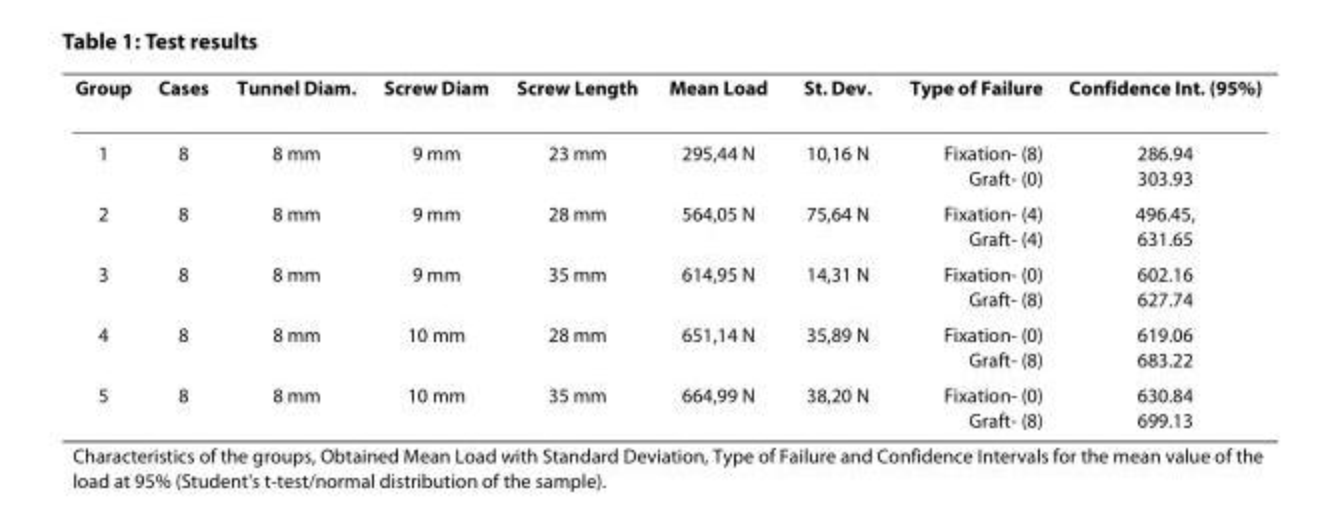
<table><thead><tr><td>Group</td><td>Cases</td><td>Tunnel Diam.</td><td>Screw Diam</td><td>Screw Length</td><td>Mean Load</td><td>St. Dev.</td><td>Type of Failure</td><td>Confidence Int. (95%)</td></tr></thead><tbody><tr><td>1</td><td>8</td><td>8 mm</td><td>9 mm</td><td>23 mm</td><td>295,44 N</td><td>10,16 N</td><td>Fixation- (8) Graft- (0)</td><td>286.94 303.93</td></tr><tr><td>2</td><td>8</td><td>8 mm</td><td>9 mm</td><td>28 mm</td><td>564,05 N</td><td>75,64 N</td><td>Fixation- (4) Graft- (4)</td><td>496.45, 631.65</td></tr><tr><td>3</td><td>8</td><td>8 mm</td><td>9 mm</td><td>35 mm</td><td>614,95 N</td><td>14,31 N</td><td>Fixation- (0) Graft- (8)</td><td>602.16 627.74</td></tr><tr><td>4</td><td>8</td><td>8 mm</td><td>10 mm</td><td>28 mm</td><td>651,14 N</td><td>35,89 N</td><td>Fixation- (0) Graft- (8)</td><td>619.06 683.22</td></tr><tr><td>5</td><td>8</td><td>8 mm</td><td>10 mm</td><td>35 mm</td><td>664,99 N</td><td>38,20 N</td><td>Fixation- (0) Graft- (8)</td><td>630.84 699.13</td></tr></tbody></table>